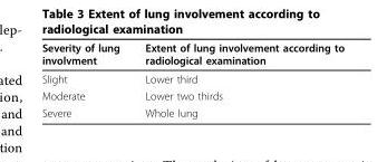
<table><thead><tr><td>Severity of lung involvment</td><td>Extent of lung involvement according to radiological examination</td></tr></thead><tbody><tr><td>Slight</td><td>Lower third</td></tr><tr><td>Moderate</td><td>Lower two thirds</td></tr><tr><td>Severe</td><td>Whole lung</td></tr></tbody></table>